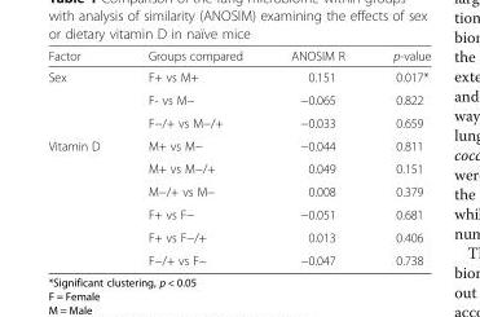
<table><thead><tr><td>Factor</td><td>Groups compared</td><td>ANOSIM R</td><td>p-value</td></tr></thead><tbody><tr><td rowspan="3">Sex</td><td>F+ vs M+</td><td>0.151</td><td>0.017*</td></tr><tr><td>F- vs M−</td><td>−0.065</td><td>0.822</td></tr><tr><td>F−/+ vs M−/+</td><td>−0.033</td><td>0.659</td></tr><tr><td rowspan="6">Vitamin D</td><td>M+ vs M−</td><td>−0.044</td><td>0.811</td></tr><tr><td>M+ vs M−/+</td><td>0.049</td><td>0.151</td></tr><tr><td>M−/+ vs M−</td><td>0.008</td><td>0.379</td></tr><tr><td>F+ vs F−</td><td>−0.051</td><td>0.681</td></tr><tr><td>F+ vs F−/+</td><td>0.013</td><td>0.406</td></tr><tr><td>F−/+ vs F−</td><td>−0.047</td><td>0.738</td></tr></tbody></table>